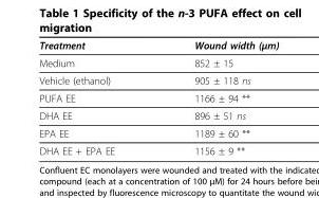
<table><thead><tr><td>Treatment</td><td>Wound width (μm)</td></tr></thead><tbody><tr><td>Medium</td><td>852 ± 15</td></tr><tr><td>Vehicle (ethanol)</td><td>905 ± 118 ns</td></tr><tr><td>PUFA EE</td><td>1166 ± 94 **</td></tr><tr><td>DHA EE</td><td>896 ± 51 ns</td></tr><tr><td>EPA EE</td><td>1189 ± 60 **</td></tr><tr><td>DHA EE + EPA EE</td><td>1156 ± 9 **</td></tr></tbody></table>